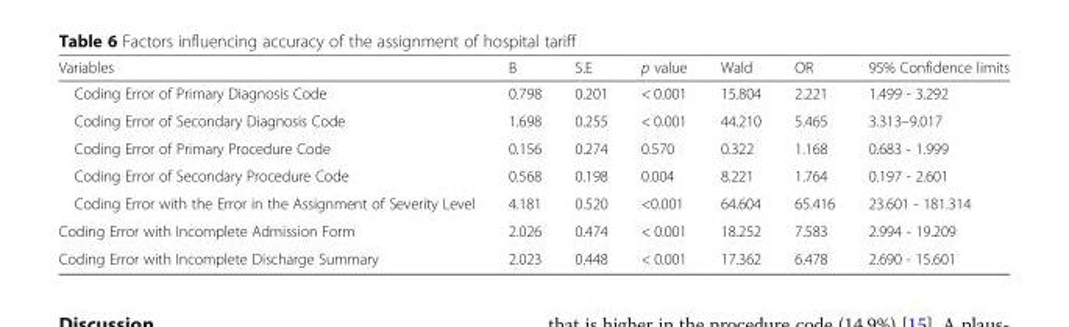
<table><thead><tr><td>Variables</td><td>B</td><td>S.E</td><td>p value</td><td>Wald</td><td>OR</td><td>95% Confidence limits</td></tr></thead><tbody><tr><td>Coding Error of Primary Diagnosis Code</td><td>0.798</td><td>0.201</td><td>&lt; 0.001</td><td>15.804</td><td>2.221</td><td>1.499 - 3.292</td></tr><tr><td>Coding Error of Secondary Diagnosis Code</td><td>1.698</td><td>0.255</td><td>&lt; 0.001</td><td>44.210</td><td>5.465</td><td>3.313–9.017</td></tr><tr><td>Coding Error of Primary Procedure Code</td><td>0.156</td><td>0.274</td><td>0.570</td><td>0.322</td><td>1.168</td><td>0.683 - 1.999</td></tr><tr><td>Coding Error of Secondary Procedure Code</td><td>0.568</td><td>0.198</td><td>0.004</td><td>8.221</td><td>1.764</td><td>0.197 - 2.601</td></tr><tr><td>Coding Error with the Error in the Assignment of Severity Level</td><td>4.181</td><td>0.520</td><td>&lt;0.001</td><td>64.604</td><td>65.416</td><td>23.601 - 181.314</td></tr><tr><td>Coding Error with Incomplete Admission Form</td><td>2.026</td><td>0.474</td><td>&lt; 0.001</td><td>18.252</td><td>7.583</td><td>2.994 - 19.209</td></tr><tr><td>Coding Error with Incomplete Discharge Summary</td><td>2.023</td><td>0.448</td><td>&lt; 0.001</td><td>17.362</td><td>6.478</td><td>2.690 - 15.601</td></tr></tbody></table>